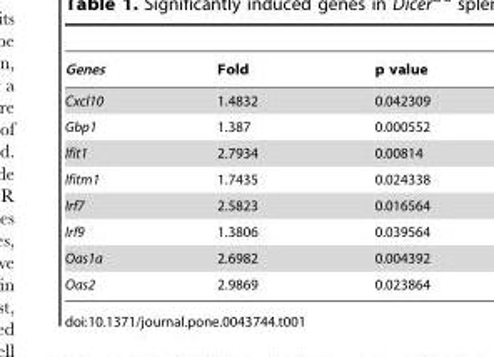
<table><thead><tr><td>Genes</td><td>Fold</td><td>p value</td></tr></thead><tbody><tr><td>Cxcl10</td><td>1.4832</td><td>0.042309</td></tr><tr><td>Gbp1</td><td>1.387</td><td>0.000552</td></tr><tr><td>Ifit1</td><td>2.7934</td><td>0.00814</td></tr><tr><td>Ifitm1</td><td>1.7435</td><td>0.024338</td></tr><tr><td>Irf7</td><td>2.5823</td><td>0.016564</td></tr><tr><td>Irf9</td><td>1.3806</td><td>0.039564</td></tr><tr><td>Oas1a</td><td>2.6982</td><td>0.004392</td></tr><tr><td>Oas2</td><td>2.9869</td><td>0.023864</td></tr></tbody></table>